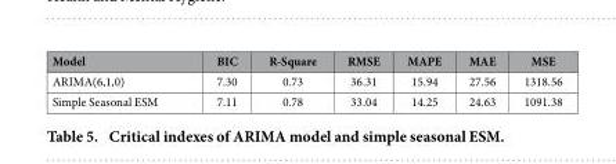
<table><thead><tr><td>Model</td><td>BIC</td><td>R-Square</td><td>RMSE</td><td>MAPE</td><td>MAE</td><td>MSE</td></tr></thead><tbody><tr><td>ARIMA(6,1,0)</td><td>7.30</td><td>0.73</td><td>36.31</td><td>15.94</td><td>27.56</td><td>1318.56</td></tr><tr><td>Simple Seasonal ESM</td><td>7.11</td><td>0.78</td><td>33.04</td><td>14.25</td><td>24.63</td><td>1091.38</td></tr></tbody></table>